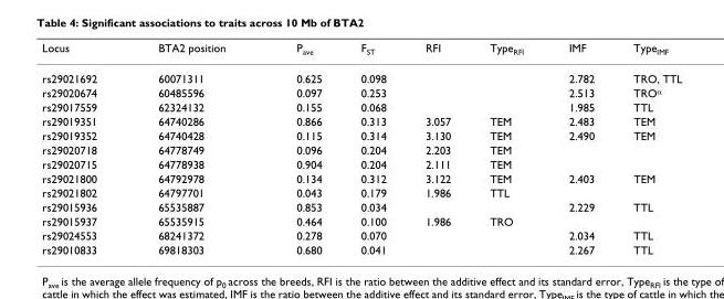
<table><thead><tr><td>Locus</td><td>BTA2 position</td><td>P<sub>ave</sub></td><td>F<sub>ST</sub></td><td>RFI</td><td>Type<sub>RFI</sub></td><td>IMF</td><td>Type<sub>IMF</sub></td></tr></thead><tbody><tr><td>rs29021692</td><td>60071311</td><td>0.625</td><td>0.098</td><td></td><td></td><td>2.782</td><td>TRO, TTL</td></tr><tr><td>rs29020674</td><td>60485596</td><td>0.097</td><td>0.253</td><td></td><td></td><td>2.513</td><td>TRO<sup>α</sup></td></tr><tr><td>rs29017559</td><td>62324132</td><td>0.155</td><td>0.068</td><td></td><td></td><td>1.985</td><td>TTL</td></tr><tr><td>rs29019351</td><td>64740286</td><td>0.866</td><td>0.313</td><td>3.057</td><td>TEM</td><td>2.483</td><td>TEM</td></tr><tr><td>rs29019352</td><td>64740428</td><td>0.115</td><td>0.314</td><td>3.130</td><td>TEM</td><td>2.490</td><td>TEM</td></tr><tr><td>rs29020718</td><td>64778749</td><td>0.096</td><td>0.204</td><td>2.203</td><td>TEM</td><td></td><td></td></tr><tr><td>rs29020715</td><td>64778938</td><td>0.904</td><td>0.204</td><td>2.111</td><td>TEM</td><td></td><td></td></tr><tr><td>rs29021800</td><td>64792978</td><td>0.134</td><td>0.312</td><td>3.122</td><td>TEM</td><td>2.403</td><td>TEM</td></tr><tr><td>rs29021802</td><td>64797701</td><td>0.043</td><td>0.179</td><td>1.986</td><td>TTL</td><td></td><td></td></tr><tr><td>rs29015936</td><td>65535887</td><td>0.853</td><td>0.034</td><td></td><td></td><td>2.229</td><td>TTL</td></tr><tr><td>rs29015937</td><td>65535915</td><td>0.464</td><td>0.100</td><td>1.986</td><td>TRO</td><td></td><td></td></tr><tr><td>rs29024553</td><td>68241372</td><td>0.278</td><td>0.070</td><td></td><td></td><td>2.034</td><td>TTL</td></tr><tr><td>rs29010833</td><td>69818303</td><td>0.680</td><td>0.041</td><td></td><td></td><td>2.267</td><td>TTL</td></tr></tbody></table>